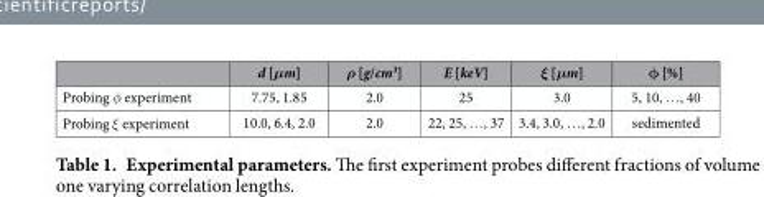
<table><thead><tr><td></td><td>d [μm]</td><td>ρ [g/cm<sup>3</sup>]</td><td>E [keV]</td><td>ξ [μm]</td><td>φ [%]</td></tr></thead><tbody><tr><td>Probing φ experiment</td><td>7.75, 1.85</td><td>2.0</td><td>25</td><td>3.0</td><td>5, 10, … , 40</td></tr><tr><td>Probing ξ experiment</td><td>10.0, 6.4, 2.0</td><td>2.0</td><td>22, 25, … , 37</td><td>3.4, 3.0, … , 2.0</td><td>sedimented</td></tr></tbody></table>